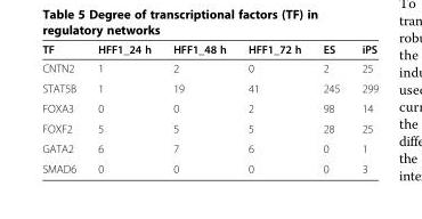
<table><thead><tr><td>TF</td><td>HFF1_24 h</td><td>HFF1_48 h</td><td>HFF1_72 h</td><td>ES</td><td>iPS</td></tr></thead><tbody><tr><td>CNTN2</td><td>1</td><td>2</td><td>0</td><td>2</td><td>25</td></tr><tr><td>STAT5B</td><td>1</td><td>19</td><td>41</td><td>245</td><td>299</td></tr><tr><td>FOXA3</td><td>0</td><td>0</td><td>2</td><td>98</td><td>14</td></tr><tr><td>FOXF2</td><td>5</td><td>5</td><td>5</td><td>28</td><td>25</td></tr><tr><td>GATA2</td><td>6</td><td>7</td><td>6</td><td>0</td><td>1</td></tr><tr><td>SMAD6</td><td>0</td><td>0</td><td>0</td><td>0</td><td>3</td></tr></tbody></table>